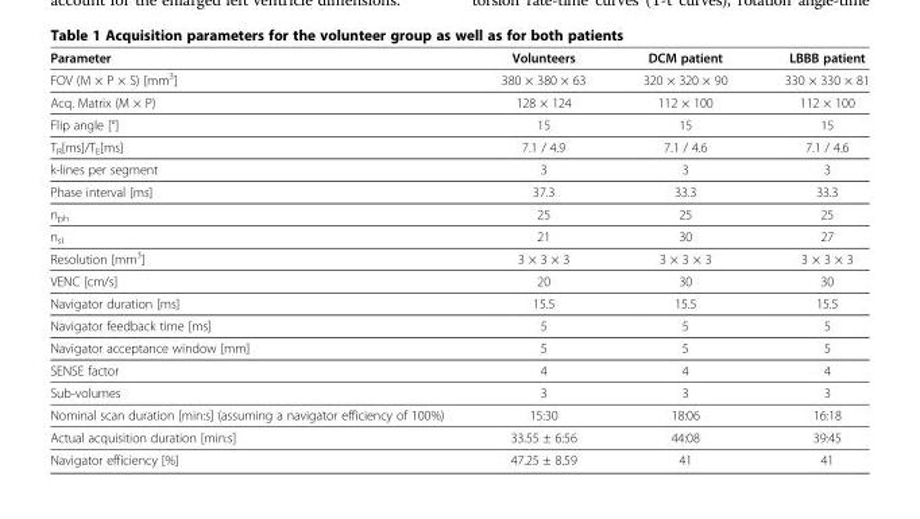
<table><thead><tr><td>Parameter</td><td>Volunteers</td><td>DCM patient</td><td>LBBB patient</td></tr></thead><tbody><tr><td>FOV (M × P × S) [mm<sup>3</sup>]</td><td>380 × 380 × 63</td><td>320 × 320 × 90</td><td>330 × 330 × 81</td></tr><tr><td>Acq. Matrix (M × P)</td><td>128 × 124</td><td>112 × 100</td><td>112 × 100</td></tr><tr><td>Flip angle [°]</td><td>15</td><td>15</td><td>15</td></tr><tr><td>T<sub>R</sub>[ms]/T<sub>E</sub>[ms]</td><td>7.1 / 4.9</td><td>7.1 / 4.6</td><td>7.1 / 4.6</td></tr><tr><td>k-lines per segment</td><td>3</td><td>3</td><td>3</td></tr><tr><td>Phase interval [ms]</td><td>37.3</td><td>33.3</td><td>33.3</td></tr><tr><td>n<sub>ph</sub></td><td>25</td><td>25</td><td>25</td></tr><tr><td>n<sub>sl</sub></td><td>21</td><td>30</td><td>27</td></tr><tr><td>Resolution [mm<sup>3</sup>]</td><td>3 × 3 × 3</td><td>3 × 3 × 3</td><td>3 × 3 × 3</td></tr><tr><td>VENC [cm/s]</td><td>20</td><td>30</td><td>30</td></tr><tr><td>Navigator duration [ms]</td><td>15.5</td><td>15.5</td><td>15.5</td></tr><tr><td>Navigator feedback time [ms]</td><td>5</td><td>5</td><td>5</td></tr><tr><td>Navigator acceptance window [mm]</td><td>5</td><td>5</td><td>5</td></tr><tr><td>SENSE factor</td><td>4</td><td>4</td><td>4</td></tr><tr><td>Sub-volumes</td><td>3</td><td>3</td><td>3</td></tr><tr><td>Nominal scan duration [min:s] (assuming a navigator efficiency of 100%)</td><td>15:30</td><td>18:06</td><td>16:18</td></tr><tr><td>Actual acquisition duration [min:s]</td><td>33.55 ± 6:56</td><td>44:08</td><td>39:45</td></tr><tr><td>Navigator efficiency [%]</td><td>47.25 ± 8.59</td><td>41</td><td>41</td></tr></tbody></table>